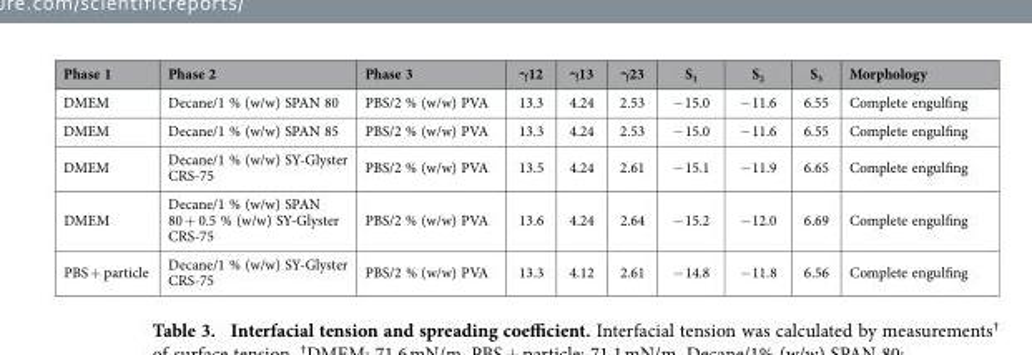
<table><thead><tr><td>Phase 1</td><td>Phase 2</td><td>Phase 3</td><td>γ12</td><td>γ13</td><td>γ23</td><td>S1</td><td>S2</td><td>S3</td><td>Morphology</td></tr></thead><tbody><tr><td>DMEM</td><td>Decane/1 % (w/w) SPAN 80</td><td>PBS/2 % (w/w) PVA</td><td>13.3</td><td>4.24</td><td>2.53</td><td>− 15.0</td><td>− 11.6</td><td>6.55</td><td>Complete engulfing</td></tr><tr><td>DMEM</td><td>Decane/1 % (w/w) SPAN 85</td><td>PBS/2 % (w/w) PVA</td><td>13.3</td><td>4.24</td><td>2.53</td><td>− 15.0</td><td>− 11.6</td><td>6.55</td><td>Complete engulfing</td></tr><tr><td>DMEM</td><td>Decane/1 % (w/w) SY-Glyster CRS-75</td><td>PBS/2 % (w/w) PVA</td><td>13.5</td><td>4.24</td><td>2.61</td><td>− 15.1</td><td>− 11.9</td><td>6.65</td><td>Complete engulfing</td></tr><tr><td>DMEM</td><td>Decane/1 % (w/w) SPAN 80 + 0.5 % (w/w) SY-Glyster CRS-75</td><td>PBS/2 % (w/w) PVA</td><td>13.6</td><td>4.24</td><td>2.64</td><td>− 15.2</td><td>− 12.0</td><td>6.69</td><td>Complete engulfing</td></tr><tr><td>PBS + particle</td><td>Decane/1 % (w/w) SY-Glyster CRS-75</td><td>PBS/2 % (w/w) PVA</td><td>13.3</td><td>4.12</td><td>2.61</td><td>− 14.8</td><td>− 11.8</td><td>6.56</td><td>Complete engulfing</td></tr></tbody></table>